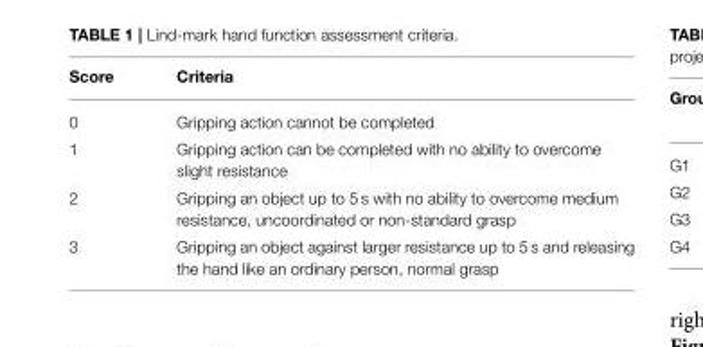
<table><thead><tr><td>Score</td><td>Criteria</td></tr></thead><tbody><tr><td>0</td><td>Gripping action cannot be completed</td></tr><tr><td>1</td><td>Gripping action can be completed with no ability to overcome slight resistance</td></tr><tr><td>2</td><td>Gripping an object up to 5 s with no ability to overcome medium resistance, uncoordinated or non-standard grasp</td></tr><tr><td>3</td><td>Gripping an object against larger resistance up to 5 s and releasing the hand like an ordinary person, normal grasp</td></tr></tbody></table>